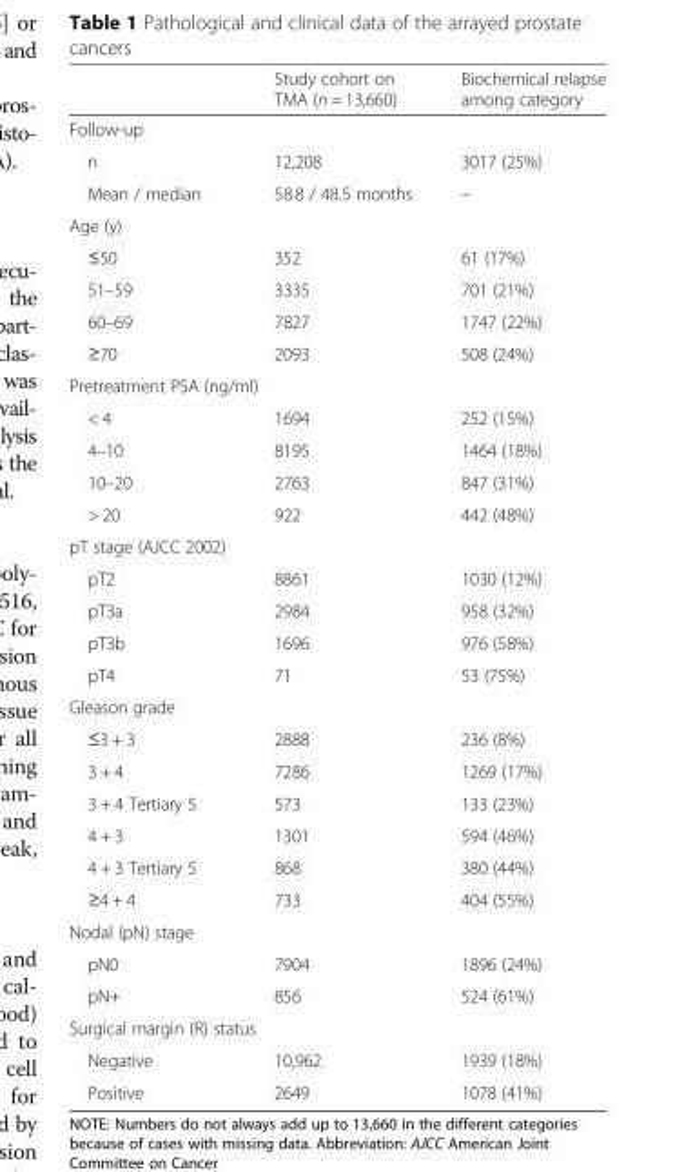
<table><thead><tr><td></td><td>Study cohort on TMA (n = 13,660)</td><td>Biochemical relapse among category</td></tr></thead><tbody><tr><td colspan="3">Follow-up</td></tr><tr><td>n</td><td>12,208</td><td>3017 (25%)</td></tr><tr><td>Mean / median</td><td>58.8 / 48.5 months</td><td>–</td></tr><tr><td colspan="3">Age (y)</td></tr><tr><td>≤50</td><td>352</td><td>61 (17%)</td></tr><tr><td>51–59</td><td>3335</td><td>701 (21%)</td></tr><tr><td>60–69</td><td>7827</td><td>1747 (22%)</td></tr><tr><td>≥70</td><td>2093</td><td>508 (24%)</td></tr><tr><td colspan="3">Pretreatment PSA (ng/ml)</td></tr><tr><td>&lt; 4</td><td>1694</td><td>252 (15%)</td></tr><tr><td>4–10</td><td>8195</td><td>1464 (18%)</td></tr><tr><td>10–20</td><td>2763</td><td>847 (31%)</td></tr><tr><td>&gt; 20</td><td>922</td><td>442 (48%)</td></tr><tr><td colspan="3">pT stage (AJCC 2002)</td></tr><tr><td>pT2</td><td>8861</td><td>1030 (12%)</td></tr><tr><td>pT3a</td><td>2984</td><td>958 (32%)</td></tr><tr><td>pT3b</td><td>1696</td><td>976 (58%)</td></tr><tr><td>pT4</td><td>71</td><td>53 (75%)</td></tr><tr><td colspan="3">Gleason grade</td></tr><tr><td>≤3 + 3</td><td>2888</td><td>236 (8%)</td></tr><tr><td>3 + 4</td><td>7286</td><td>1269 (17%)</td></tr><tr><td>3 + 4 Tertiary 5</td><td>573</td><td>133 (23%)</td></tr><tr><td>4 + 3</td><td>1301</td><td>594 (46%)</td></tr><tr><td>4 + 3 Tertiary 5</td><td>868</td><td>380 (44%)</td></tr><tr><td>≥4 + 4</td><td>733</td><td>404 (55%)</td></tr><tr><td colspan="3">Nodal (pN) stage</td></tr><tr><td>pN0</td><td>7904</td><td>1896 (24%)</td></tr><tr><td>pN+</td><td>856</td><td>524 (61%)</td></tr><tr><td colspan="3">Surgical margin (R) status</td></tr><tr><td>Negative</td><td>10,962</td><td>1939 (18%)</td></tr><tr><td>Positive</td><td>2649</td><td>1078 (41%)</td></tr></tbody></table>